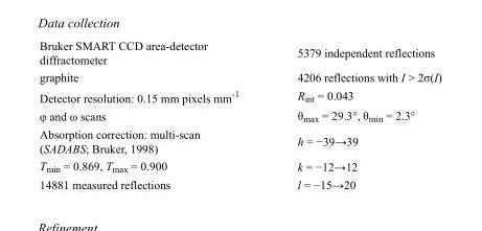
<table><tbody><tr><td>Bruker SMART CCD area-detector diffractometer</td><td>5379 independent reflections</td></tr><tr><td>graphite</td><td>4206 reflections with I &gt; 2σ(I)</td></tr><tr><td>Detector resolution: 0.15 mm pixels mm<sup>-1</sup></td><td>R<sub>int</sub> = 0.043</td></tr><tr><td>φ and ω scans</td><td>θ<sub>max</sub> = 29.3°, θ<sub>min</sub> = 2.3°</td></tr><tr><td>Absorption correction: multi-scan (SADABS; Bruker, 1998)</td><td>h = −39→39</td></tr><tr><td>T<sub>min</sub> = 0.869, T<sub>max</sub> = 0.900</td><td>k = −12→12</td></tr><tr><td>14881 measured reflections</td><td>l = −15→20</td></tr></tbody></table>